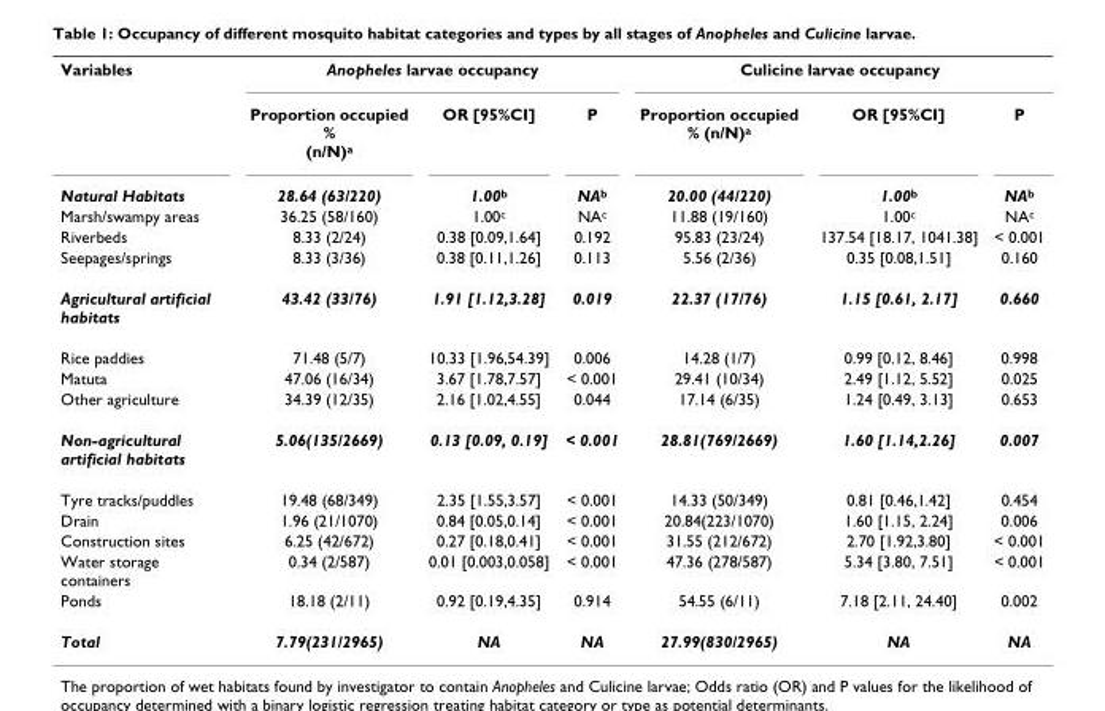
<table><tbody><tr><td rowspan="2">Variables</td><td colspan="3">Anopheles larvae occupancy</td><td colspan="3">Culicine larvae occupancy</td></tr><tr><td>Proportion occupied % (n/N)<sup>a</sup></td><td>OR [95%CI]</td><td>P</td><td>Proportion occupied % (n/N)<sup>a</sup></td><td>OR [95%CI]</td><td>P</td></tr><tr><td>Natural Habitats</td><td>28.64 (63/220)</td><td>1.00<sup>b</sup></td><td>NA<sup>b</sup></td><td>20.00 (44/220)</td><td>1.00<sup>b</sup></td><td>NA<sup>b</sup></td></tr><tr><td>Marsh/swampy areas</td><td>36.25 (58/160)</td><td>1.00<sup>c</sup></td><td>NA<sup>c</sup></td><td>11.88 (19/160)</td><td>1.00<sup>c</sup></td><td>NA<sup>c</sup></td></tr><tr><td>Riverbeds</td><td>8.33 (2/24)</td><td>0.38 [0.09,1.64]</td><td>0.192</td><td>95.83 (23/24)</td><td>137.54 [18.17, 1041.38]</td><td>&lt; 0.001</td></tr><tr><td>Seepages/springs</td><td>8.33 (3/36)</td><td>0.38 [0.11,1.26]</td><td>0.113</td><td>5.56 (2/36)</td><td>0.35 [0.08,1.51]</td><td>0.160</td></tr><tr><td>Agricultural artificial habitats</td><td>43.42 (33/76)</td><td>1.91 [1.12,3.28]</td><td>0.019</td><td>22.37 (17/76)</td><td>1.15 [0.61, 2.17]</td><td>0.660</td></tr><tr><td>Rice paddies</td><td>71.48 (5/7)</td><td>10.33 [1.96,54.39]</td><td>0.006</td><td>14.28 (1/7)</td><td>0.99 [0.12, 8.46]</td><td>0.998</td></tr><tr><td>Matuta</td><td>47.06 (16/34)</td><td>3.67 [1.78,7.57]</td><td>&lt; 0.001</td><td>29.41 (10/34)</td><td>2.49 [1.12, 5.52]</td><td>0.025</td></tr><tr><td>Other agriculture</td><td>34.39 (12/35)</td><td>2.16 [1.02,4.55]</td><td>0.044</td><td>17.14 (6/35)</td><td>1.24 [0.49, 3.13]</td><td>0.653</td></tr><tr><td>Non-agricultural artificial habitats</td><td>5.06(135/2669)</td><td>0.13 [0.09, 0.19]</td><td>&lt; 0.001</td><td>28.81(769/2669)</td><td>1.60 [1.14,2.26]</td><td>0.007</td></tr><tr><td>Tyre tracks/puddles</td><td>19.48 (68/349)</td><td>2.35 [1.55,3.57]</td><td>&lt; 0.001</td><td>14.33 (50/349)</td><td>0.81 [0.46,1.42]</td><td>0.454</td></tr><tr><td>Drain</td><td>1.96 (21/1070)</td><td>0.84 [0.05,0.14]</td><td>&lt; 0.001</td><td>20.84(223/1070)</td><td>1.60 [1.15, 2.24]</td><td>0.006</td></tr><tr><td>Construction sites</td><td>6.25 (42/672)</td><td>0.27 [0.18,0.41]</td><td>&lt; 0.001</td><td>31.55 (212/672)</td><td>2.70 [1.92,3.80]</td><td>&lt; 0.001</td></tr><tr><td>Water storage containers</td><td>0.34 (2/587)</td><td>0.01 [0.003,0.058]</td><td>&lt; 0.001</td><td>47.36 (278/587)</td><td>5.34 [3.80, 7.51]</td><td>&lt; 0.001</td></tr><tr><td>Ponds</td><td>18.18 (2/11)</td><td>0.92 [0.19,4.35]</td><td>0.914</td><td>54.55 (6/11)</td><td>7.18 [2.11, 24.40]</td><td>0.002</td></tr><tr><td>Total</td><td>7.79(231/2965)</td><td>NA</td><td>NA</td><td>27.99(830/2965)</td><td>NA</td><td>NA</td></tr></tbody></table>